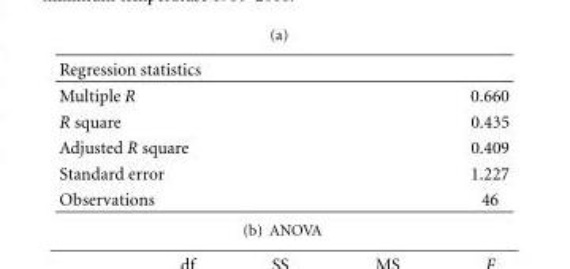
<table><thead><tr><td>Regression statistics</td><td></td></tr></thead><tbody><tr><td>Multiple R</td><td>0.660</td></tr><tr><td>R square</td><td>0.435</td></tr><tr><td>Adjusted R square</td><td>0.409</td></tr><tr><td>Standard error</td><td>1.227</td></tr><tr><td>Observations</td><td>46</td></tr></tbody></table>